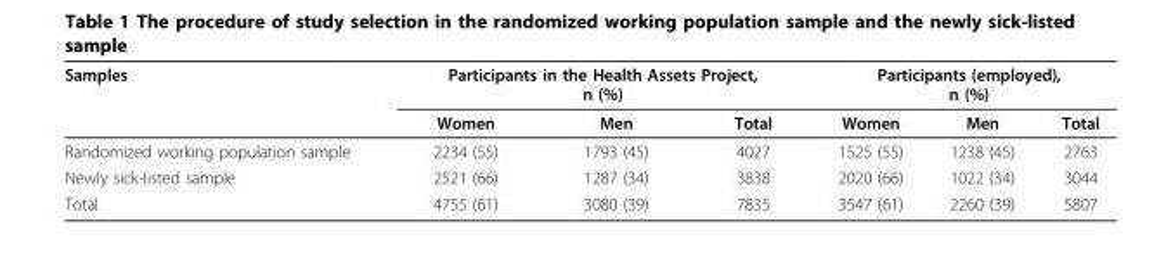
<table><thead><tr><td rowspan="2">Samples</td><td colspan="3">Participants in the Health Assets Project, n (%)</td><td colspan="3">Participants (employed), n (%)</td></tr><tr><td>Women</td><td>Men</td><td>Total</td><td>Women</td><td>Men</td><td>Total</td></tr></thead><tbody><tr><td>Randomized working population sample</td><td>2234 (55)</td><td>1793 (45)</td><td>4027</td><td>1525 (55)</td><td>1238 (45)</td><td>2763</td></tr><tr><td>Newly sick-listed sample</td><td>2521 (66)</td><td>1287 (34)</td><td>3838</td><td>2020 (66)</td><td>1022 (34)</td><td>3044</td></tr><tr><td>Total</td><td>4755 (61)</td><td>3080 (39)</td><td>7835</td><td>3547 (61)</td><td>2260 (39)</td><td>5807</td></tr></tbody></table>